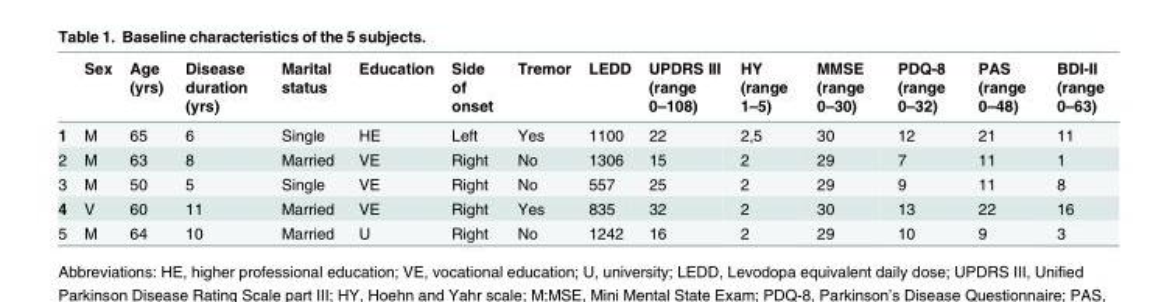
<table><thead><tr><td></td><td>Sex</td><td>Age (yrs)</td><td>Disease duration (yrs)</td><td>Marital status</td><td>Education</td><td>Side of onset</td><td>Tremor</td><td>LEDD</td><td>UPDRS III (range 0–108)</td><td>HY (range 1–5)</td><td>MMSE (range 0–30)</td><td>PDQ-8 (range 0–32)</td><td>PAS (range 0–48)</td><td>BDI-II (range 0–63)</td></tr></thead><tbody><tr><td>1</td><td>M</td><td>65</td><td>6</td><td>Single</td><td>HE</td><td>Left</td><td>Yes</td><td>1100</td><td>22</td><td>2,5</td><td>30</td><td>12</td><td>21</td><td>11</td></tr><tr><td>2</td><td>M</td><td>63</td><td>8</td><td>Married</td><td>VE</td><td>Right</td><td>No</td><td>1306</td><td>15</td><td>2</td><td>29</td><td>7</td><td>11</td><td>1</td></tr><tr><td>3</td><td>M</td><td>50</td><td>5</td><td>Single</td><td>VE</td><td>Right</td><td>No</td><td>557</td><td>25</td><td>2</td><td>29</td><td>9</td><td>11</td><td>8</td></tr><tr><td>4</td><td>V</td><td>60</td><td>11</td><td>Married</td><td>VE</td><td>Right</td><td>Yes</td><td>835</td><td>32</td><td>2</td><td>30</td><td>13</td><td>22</td><td>16</td></tr><tr><td>5</td><td>M</td><td>64</td><td>10</td><td>Married</td><td>U</td><td>Right</td><td>No</td><td>1242</td><td>16</td><td>2</td><td>29</td><td>10</td><td>9</td><td>3</td></tr></tbody></table>